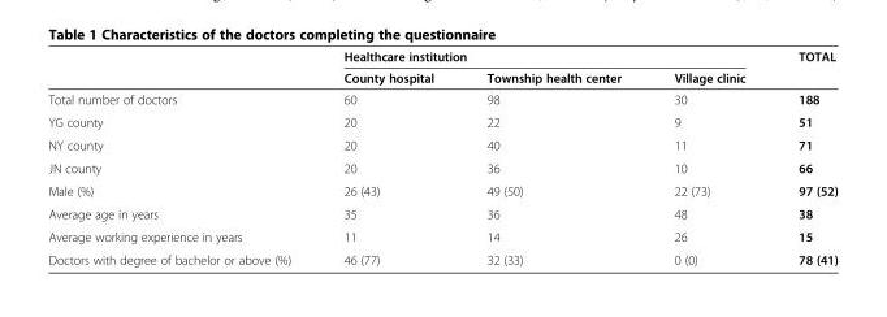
<table><thead><tr><td rowspan="2"></td><td colspan="3">Healthcare institution</td><td rowspan="2">TOTAL</td></tr><tr><td>County hospital</td><td>Township health center</td><td>Village clinic</td></tr></thead><tbody><tr><td>Total number of doctors</td><td>60</td><td>98</td><td>30</td><td>188</td></tr><tr><td>YG county</td><td>20</td><td>22</td><td>9</td><td>51</td></tr><tr><td>NY county</td><td>20</td><td>40</td><td>11</td><td>71</td></tr><tr><td>JN county</td><td>20</td><td>36</td><td>10</td><td>66</td></tr><tr><td>Male (%)</td><td>26 (43)</td><td>49 (50)</td><td>22 (73)</td><td>97 (52)</td></tr><tr><td>Average age in years</td><td>35</td><td>36</td><td>48</td><td>38</td></tr><tr><td>Average working experience in years</td><td>11</td><td>14</td><td>26</td><td>15</td></tr><tr><td>Doctors with degree of bachelor or above (%)</td><td>46 (77)</td><td>32 (33)</td><td>0 (0)</td><td>78 (41)</td></tr></tbody></table>